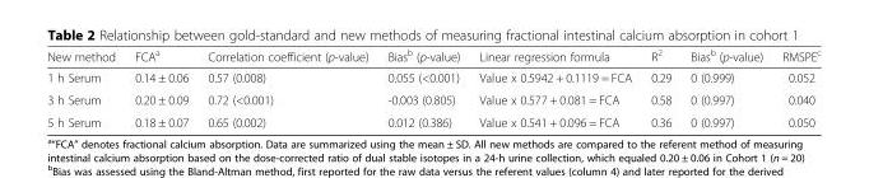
<table><thead><tr><td>New method</td><td>FCA<sup>a</sup></td><td>Correlation coefficient (p-value)</td><td>Bias<sup>b</sup> (p-value)</td><td>Linear regression formula</td><td>R<sup>2</sup></td><td>Bias<sup>b</sup> (p-value)</td><td>RMSPE<sup>c</sup></td></tr></thead><tbody><tr><td>1 h Serum</td><td>0.14 ± 0.06</td><td>0.57 (0.008)</td><td>0.055 (&lt;0.001)</td><td>Value x 0.5942 + 0.1119 = FCA</td><td>0.29</td><td>0 (0.999)</td><td>0.052</td></tr><tr><td>3 h Serum</td><td>0.20 ± 0.09</td><td>0.72 (&lt;0.001)</td><td>-0.003 (0.805)</td><td>Value x 0.577 + 0.081 = FCA</td><td>0.58</td><td>0 (0.997)</td><td>0.040</td></tr><tr><td>5 h Serum</td><td>0.18 ± 0.07</td><td>0.65 (0.002)</td><td>0.012 (0.386)</td><td>Value x 0.541 + 0.096 = FCA</td><td>0.36</td><td>0 (0.997)</td><td>0.050</td></tr></tbody></table>